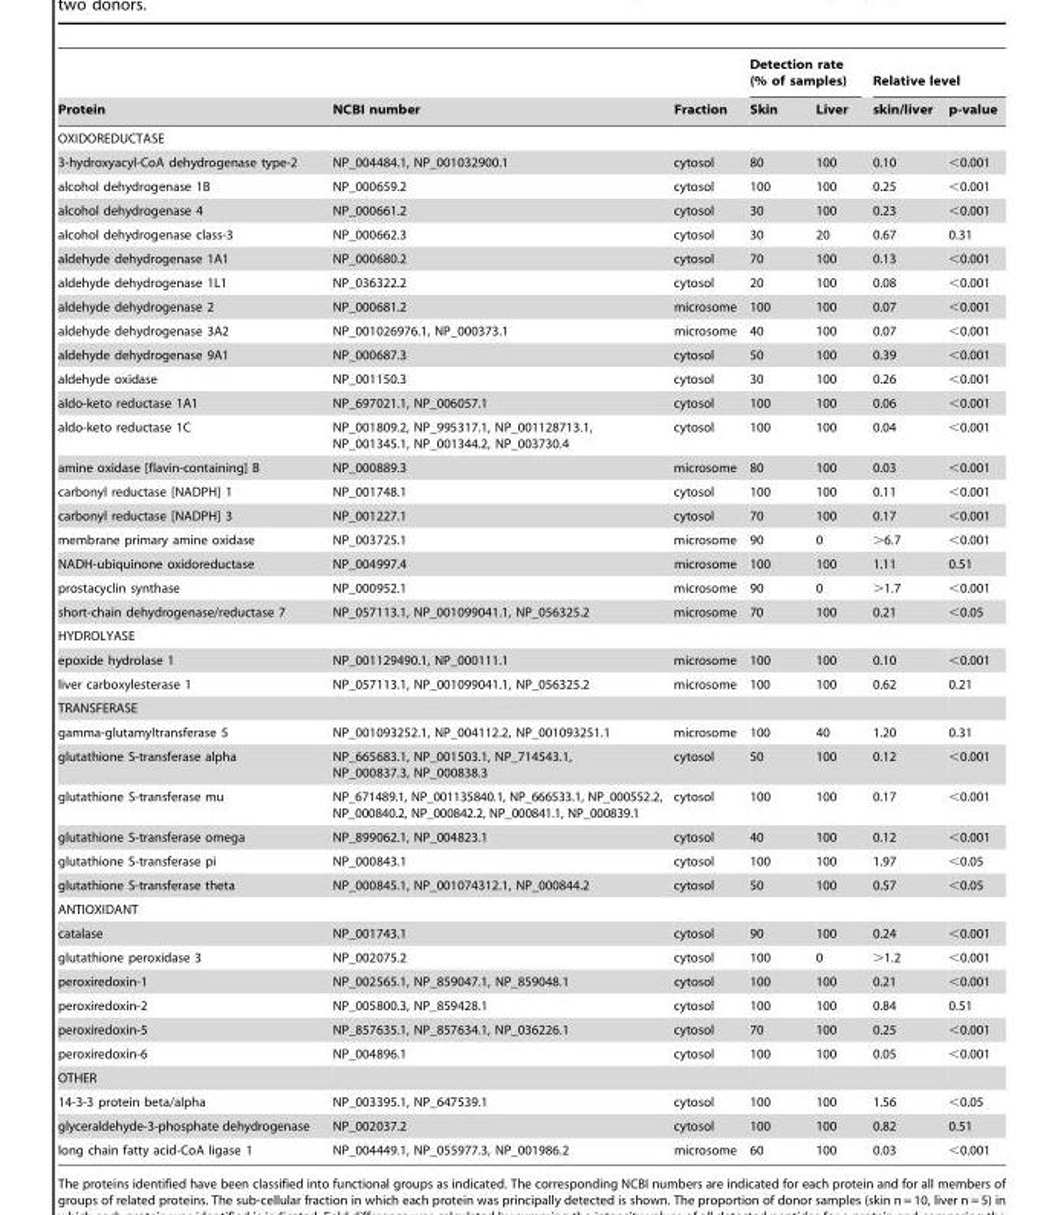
<table><thead><tr><td rowspan="2">Protein</td><td rowspan="2">NCBI number</td><td rowspan="2">Fraction</td><td colspan="2">Detection rate (% of samples)</td><td colspan="2">Relative level</td></tr><tr><td>Skin</td><td>Liver</td><td>skin/liver</td><td>p-value</td></tr></thead><tbody><tr><td colspan="7">OXIDOREDUCTASE</td></tr><tr><td>3-hydroxyacyl-CoA dehydrogenase type-2</td><td>NP_004484.1, NP_001032900.1</td><td>cytosol</td><td>80</td><td>100</td><td>0.10</td><td>&lt;0.001</td></tr><tr><td>alcohol dehydrogenase 1B</td><td>NP_000659.2</td><td>cytosol</td><td>100</td><td>100</td><td>0.25</td><td>&lt;0.001</td></tr><tr><td>alcohol dehydrogenase 4</td><td>NP_000661.2</td><td>cytosol</td><td>30</td><td>100</td><td>0.23</td><td>&lt;0.001</td></tr><tr><td>alcohol dehydrogenase class-3</td><td>NP_000662.3</td><td>cytosol</td><td>30</td><td>20</td><td>0.67</td><td>0.31</td></tr><tr><td>aldehyde dehydrogenase 1A1</td><td>NP_000680.2</td><td>cytosol</td><td>70</td><td>100</td><td>0.13</td><td>&lt;0.001</td></tr><tr><td>aldehyde dehydrogenase 1L1</td><td>NP_036322.2</td><td>cytosol</td><td>20</td><td>100</td><td>0.08</td><td>&lt;0.001</td></tr><tr><td>aldehyde dehydrogenase 2</td><td>NP_000681.2</td><td>microsome</td><td>100</td><td>100</td><td>0.07</td><td>&lt;0.001</td></tr><tr><td>aldehyde dehydrogenase 3A2</td><td>NP_001026976.1, NP_000373.1</td><td>microsome</td><td>40</td><td>100</td><td>0.07</td><td>&lt;0.001</td></tr><tr><td>aldehyde dehydrogenase 9A1</td><td>NP_000687.3</td><td>cytosol</td><td>50</td><td>100</td><td>0.39</td><td>&lt;0.001</td></tr><tr><td>aldehyde oxidase</td><td>NP_001150.3</td><td>cytosol</td><td>30</td><td>100</td><td>0.26</td><td>&lt;0.001</td></tr><tr><td>aldo-keto reductase 1A1</td><td>NP_697021.1, NP_006057.1</td><td>cytosol</td><td>100</td><td>100</td><td>0.06</td><td>&lt;0.001</td></tr><tr><td>aldo-keto reductase 1C</td><td>NP_001809.2, NP_995317.1, NP_001128713.1, NP_001345.1, NP_001344.2, NP_003730.4</td><td>cytosol</td><td>100</td><td>100</td><td>0.04</td><td>&lt;0.001</td></tr><tr><td>amine oxidase [flavin-containing] B</td><td>NP_000889.3</td><td>microsome</td><td>80</td><td>100</td><td>0.03</td><td>&lt;0.001</td></tr><tr><td>carbonyl reductase [NADPH] 1</td><td>NP_001748.1</td><td>cytosol</td><td>100</td><td>100</td><td>0.11</td><td>&lt;0.001</td></tr><tr><td>carbonyl reductase [NADPH] 3</td><td>NP_001227.1</td><td>cytosol</td><td>70</td><td>100</td><td>0.17</td><td>&lt;0.001</td></tr><tr><td>membrane primary amine oxidase</td><td>NP_003725.1</td><td>microsome</td><td>90</td><td>0</td><td>&gt;6.7</td><td>&lt;0.001</td></tr><tr><td>NADH-ubiquinone oxidoreductase</td><td>NP_004997.4</td><td>microsome</td><td>100</td><td>100</td><td>1.11</td><td>0.51</td></tr><tr><td>prostacyclin synthase</td><td>NP_000952.1</td><td>microsome</td><td>90</td><td>0</td><td>&gt;1.7</td><td>&lt;0.001</td></tr><tr><td>short-chain dehydrogenase/reductase 7</td><td>NP_057113.1, NP_001099041.1, NP_056325.2</td><td>microsome</td><td>70</td><td>100</td><td>0.21</td><td>&lt;0.05</td></tr><tr><td colspan="7">HYDROLYASE</td></tr><tr><td>epoxide hydrolase 1</td><td>NP_001129490.1, NP_000111.1</td><td>microsome</td><td>100</td><td>100</td><td>0.10</td><td>&lt;0.001</td></tr><tr><td>liver carboxylesterase 1</td><td>NP_057113.1, NP_001099041.1, NP_056325.2</td><td>microsome</td><td>100</td><td>100</td><td>0.62</td><td>0.21</td></tr><tr><td colspan="7">TRANSFERASE</td></tr><tr><td>gamma-glutamyltransferase 5</td><td>NP_001093252.1, NP_004112.2, NP_001093251.1</td><td>microsome</td><td>100</td><td>40</td><td>1.20</td><td>0.31</td></tr><tr><td>glutathione S-transferase alpha</td><td>NP_665683.1, NP_001503.1, NP_714543.1, NP_000837.3, NP_000838.3</td><td>cytosol</td><td>50</td><td>100</td><td>0.12</td><td>&lt;0.001</td></tr><tr><td>glutathione S-transferase mu</td><td>NP_671489.1, NP_001135840.1, NP_666533.1, NP_000552.2, NP_000840.2, NP_000842.2, NP_000841.1, NP_000839.1</td><td>cytosol</td><td>100</td><td>100</td><td>0.17</td><td>&lt;0.001</td></tr><tr><td>glutathione S-transferase omega</td><td>NP_899062.1, NP_004823.1</td><td>cytosol</td><td>40</td><td>100</td><td>0.12</td><td>&lt;0.001</td></tr><tr><td>glutathione S-transferase pi</td><td>NP_000843.1</td><td>cytosol</td><td>100</td><td>100</td><td>1.97</td><td>&lt;0.05</td></tr><tr><td>glutathione S-transferase theta</td><td>NP_000845.1, NP_001074312.1, NP_000844.2</td><td>cytosol</td><td>50</td><td>100</td><td>0.57</td><td>&lt;0.05</td></tr><tr><td colspan="7">ANTIOXIDANT</td></tr><tr><td>catalase</td><td>NP_001743.1</td><td>cytosol</td><td>90</td><td>100</td><td>0.24</td><td>&lt;0.001</td></tr><tr><td>glutathione peroxidase 3</td><td>NP_002075.2</td><td>cytosol</td><td>100</td><td>0</td><td>&gt;1.2</td><td>&lt;0.001</td></tr><tr><td>peroxiredoxin-1</td><td>NP_002565.1, NP_859047.1, NP_859048.1</td><td>cytosol</td><td>100</td><td>100</td><td>0.21</td><td>&lt;0.001</td></tr><tr><td>peroxiredoxin-2</td><td>NP_005800.3, NP_859428.1</td><td>cytosol</td><td>100</td><td>100</td><td>0.84</td><td>0.51</td></tr><tr><td>peroxiredoxin-5</td><td>NP_857635.1, NP_857634.1, NP_036226.1</td><td>cytosol</td><td>70</td><td>100</td><td>0.25</td><td>&lt;0.001</td></tr><tr><td>peroxiredoxin-6</td><td>NP_004896.1</td><td>cytosol</td><td>100</td><td>100</td><td>0.05</td><td>&lt;0.001</td></tr><tr><td colspan="7">OTHER</td></tr><tr><td>14-3-3 protein beta/alpha</td><td>NP_003395.1, NP_647539.1</td><td>cytosol</td><td>100</td><td>100</td><td>1.56</td><td>&lt;0.05</td></tr><tr><td>glyceraldehyde-3-phosphate dehydrogenase</td><td>NP_002037.2</td><td>cytosol</td><td>100</td><td>100</td><td>0.82</td><td>0.51</td></tr><tr><td>long chain fatty acid-CoA ligase 1</td><td>NP_004449.1, NP_055977.3, NP_001986.2</td><td>microsome</td><td>60</td><td>100</td><td>0.03</td><td>&lt;0.001</td></tr></tbody></table>